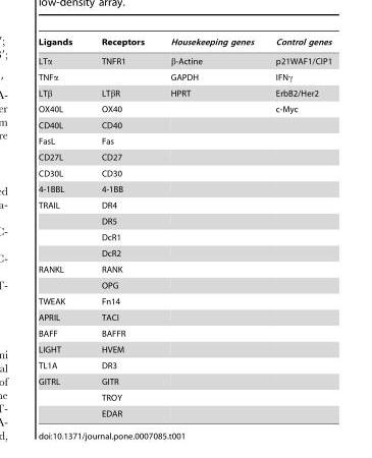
<table><thead><tr><td>Ligands</td><td>Receptors</td><td>Housekeeping genes</td><td>Control genes</td></tr></thead><tbody><tr><td>LTα</td><td>TNFR1</td><td>β-Actine</td><td>p21WAF1/CIP1</td></tr><tr><td>TNFα</td><td></td><td>GAPDH</td><td>IFNγ</td></tr><tr><td>LTβ</td><td>LTβR</td><td>HPRT</td><td>ErbB2/Her2</td></tr><tr><td>OX40L</td><td>OX40</td><td></td><td>c-Myc</td></tr><tr><td>CD40L</td><td>CD40</td><td></td><td></td></tr><tr><td>FasL</td><td>Fas</td><td></td><td></td></tr><tr><td>CD27L</td><td>CD27</td><td></td><td></td></tr><tr><td>CD30L</td><td>CD30</td><td></td><td></td></tr><tr><td>4-1BBL</td><td>4-1BB</td><td></td><td></td></tr><tr><td rowspan="4">TRAIL</td><td>DR4</td><td></td><td></td></tr><tr><td>DR5</td><td></td><td></td></tr><tr><td>DcR1</td><td></td><td></td></tr><tr><td>DcR2</td><td></td><td></td></tr><tr><td rowspan="2">RANKL</td><td>RANK</td><td></td><td></td></tr><tr><td>OPG</td><td></td><td></td></tr><tr><td>TWEAK</td><td>Fn14</td><td></td><td></td></tr><tr><td>APRIL</td><td>TACI</td><td></td><td></td></tr><tr><td>BAFF</td><td>BAFFR</td><td></td><td></td></tr><tr><td>LIGHT</td><td>HVEM</td><td></td><td></td></tr><tr><td>TL1A</td><td>DR3</td><td></td><td></td></tr><tr><td rowspan="3">GITRL</td><td>GITR</td><td></td><td></td></tr><tr><td>TROY</td><td></td><td></td></tr><tr><td>EDAR</td><td></td><td></td></tr></tbody></table>